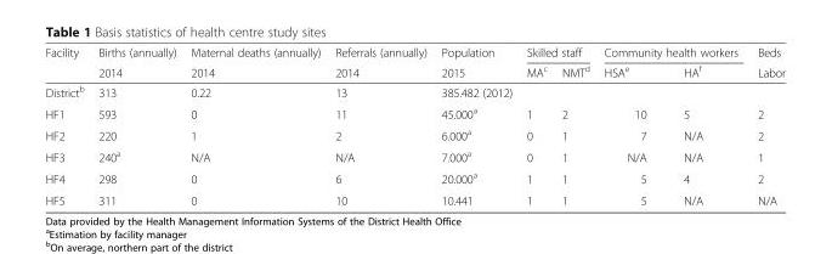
<table><thead><tr><td rowspan="2">Facility</td><td rowspan="2">Births (annually) 2014</td><td rowspan="2">Maternal deaths (annually) 2014</td><td rowspan="2">Referrals (annually) 2014</td><td rowspan="2">Population 2015</td><td colspan="2">Skilled staff</td><td colspan="2">Community health workers</td><td rowspan="2">Beds Labor</td></tr><tr><td>MA<sup>c</sup></td><td>NMT<sup>d</sup></td><td>HSA<sup>e</sup></td><td>HA<sup>f</sup></td></tr></thead><tbody><tr><td>District<sup>b</sup></td><td>313</td><td>0.22</td><td>13</td><td>385.482 (2012)</td><td></td><td></td><td></td><td></td><td></td></tr><tr><td>HF1</td><td>593</td><td>0</td><td>11</td><td>45.000<sup>a</sup></td><td>1</td><td>2</td><td>10</td><td>5</td><td>2</td></tr><tr><td>HF2</td><td>220</td><td>1</td><td>2</td><td>6.000<sup>a</sup></td><td>0</td><td>1</td><td>7</td><td>N/A</td><td>2</td></tr><tr><td>HF3</td><td>240<sup>a</sup></td><td>N/A</td><td>N/A</td><td>7.000<sup>a</sup></td><td>0</td><td>1</td><td>N/A</td><td>N/A</td><td>1</td></tr><tr><td>HF4</td><td>298</td><td>0</td><td>6</td><td>20.000<sup>a</sup></td><td>1</td><td>1</td><td>5</td><td>4</td><td>2</td></tr><tr><td>HF5</td><td>311</td><td>0</td><td>10</td><td>10.441</td><td>1</td><td>1</td><td>5</td><td>N/A</td><td>N/A</td></tr></tbody></table>